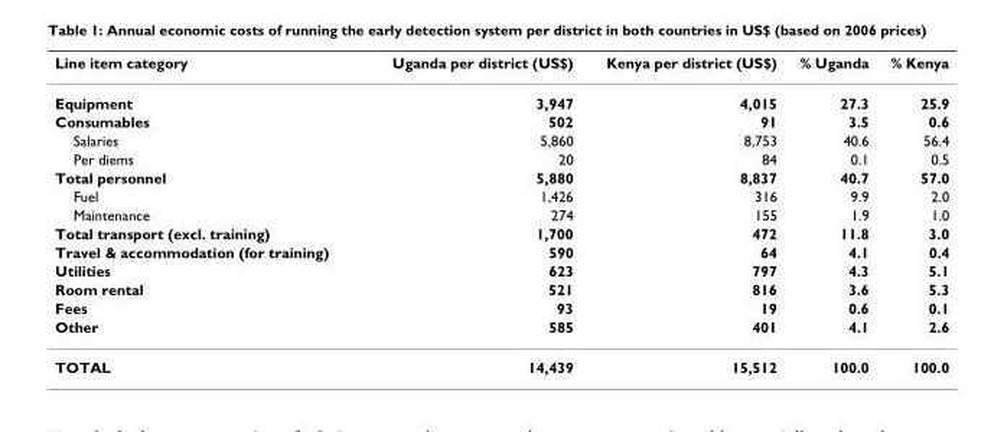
<table><thead><tr><td>Line item category</td><td>Uganda per district (US$)</td><td>Kenya per district (US$)</td><td>% Uganda</td><td>% Kenya</td></tr></thead><tbody><tr><td>Equipment</td><td>3,947</td><td>4,015</td><td>27.3</td><td>25.9</td></tr><tr><td>Consumables</td><td>502</td><td>91</td><td>3.5</td><td>0.6</td></tr><tr><td>Salaries</td><td>5,860</td><td>8,753</td><td>40.6</td><td>56.4</td></tr><tr><td>Per diems</td><td>20</td><td>84</td><td>0.1</td><td>0.5</td></tr><tr><td>Total personnel</td><td>5,880</td><td>8,837</td><td>40.7</td><td>57.0</td></tr><tr><td>Fuel</td><td>1,426</td><td>316</td><td>9.9</td><td>2.0</td></tr><tr><td>Maintenance</td><td>274</td><td>155</td><td>1.9</td><td>1.0</td></tr><tr><td>Total transport (excl. training)</td><td>1,700</td><td>472</td><td>11.8</td><td>3.0</td></tr><tr><td>Travel &amp; accommodation (for training)</td><td>590</td><td>64</td><td>4.1</td><td>0.4</td></tr><tr><td>Utilities</td><td>623</td><td>797</td><td>4.3</td><td>5.1</td></tr><tr><td>Room rental</td><td>521</td><td>816</td><td>3.6</td><td>5.3</td></tr><tr><td>Fees</td><td>93</td><td>19</td><td>0.6</td><td>0.1</td></tr><tr><td>Other</td><td>585</td><td>401</td><td>4.1</td><td>2.6</td></tr><tr><td>TOTAL</td><td>14,439</td><td>15,512</td><td>100.0</td><td>100.0</td></tr></tbody></table>